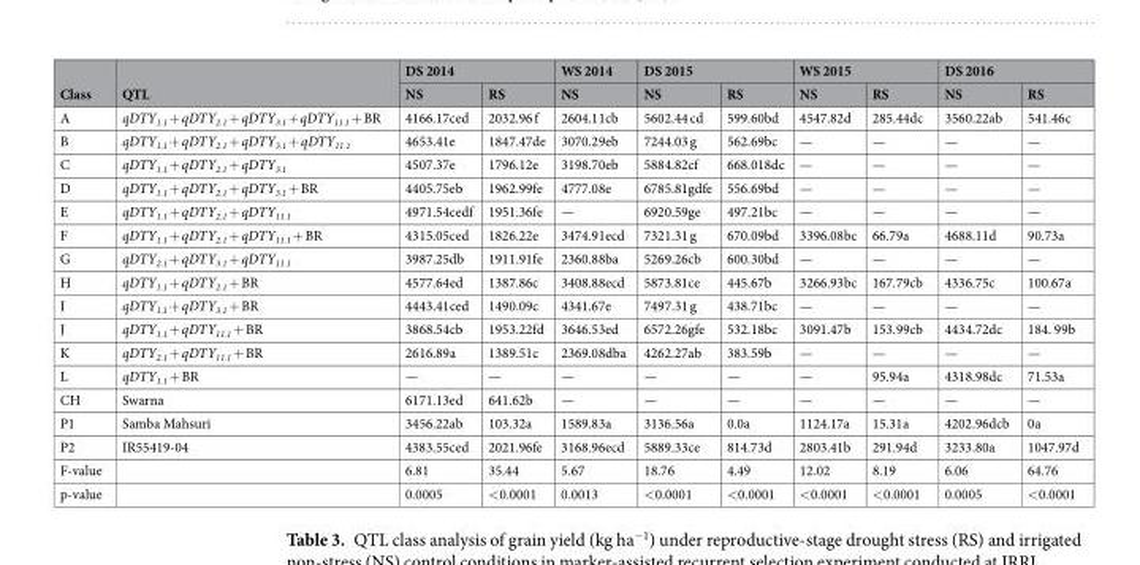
<table><thead><tr><td rowspan="2">Class</td><td rowspan="2">QTL</td><td colspan="2">DS 2014</td><td rowspan="2">WS 2014 NS</td><td colspan="2">DS 2015</td><td colspan="2">WS 2015</td><td colspan="2">DS 2016</td></tr><tr><td>NS</td><td>RS</td><td>NS</td><td>RS</td><td>NS</td><td>RS</td><td>NS</td><td>RS</td></tr></thead><tbody><tr><td>A</td><td>qDTY<sub>1.1</sub> + qDTY<sub>2.1</sub> + qDTY<sub>3.1</sub> + qDTY<sub>11.1</sub> + BR</td><td>4166.17ced</td><td>2032.96 f</td><td>2604.11cb</td><td>5602.44 cd</td><td>599.60bd</td><td>4547.82d</td><td>285.44dc</td><td>3560.22ab</td><td>541.46c</td></tr><tr><td>B</td><td>qDTY<sub>1.1</sub> + qDTY<sub>2.1</sub> + qDTY<sub>3.1</sub> + qDTY<sub>11.1</sub></td><td>4653.41e</td><td>1847.47de</td><td>3070.29eb</td><td>7244.03 g</td><td>562.69bc</td><td>—</td><td>—</td><td>—</td><td>—</td></tr><tr><td>C</td><td>qDTY<sub>1.1</sub> + qDTY<sub>2.1</sub> + qDTY<sub>3.1</sub></td><td>4507.37e</td><td>1796.12e</td><td>3198.70eb</td><td>5884.82cf</td><td>668.018dc</td><td>—</td><td>—</td><td>—</td><td>—</td></tr><tr><td>D</td><td>qDTY<sub>1.1</sub> + qDTY<sub>2.1</sub> + qDTY<sub>3.1</sub> + BR</td><td>4405.75eb</td><td>1962.99fe</td><td>4777.08e</td><td>6785.81gdfe</td><td>556.69bd</td><td>—</td><td>—</td><td>—</td><td>—</td></tr><tr><td>E</td><td>qDTY<sub>1.1</sub> + qDTY<sub>2.1</sub> + qDTY<sub>11.1</sub></td><td>4971.54cedf</td><td>1951.36fe</td><td>—</td><td>6920.59ge</td><td>497.21bc</td><td>—</td><td>—</td><td>—</td><td>—</td></tr><tr><td>F</td><td>qDTY<sub>1.1</sub> + qDTY<sub>2.1</sub> + qDTY<sub>11.1</sub> + BR</td><td>4315.05ced</td><td>1826.22e</td><td>3474.91ecd</td><td>7321.31 g</td><td>670.09bd</td><td>3396.08bc</td><td>66.79a</td><td>4688.11d</td><td>90.73a</td></tr><tr><td>G</td><td>qDTY<sub>2.1</sub> + qDTY<sub>3.1</sub> + qDTY<sub>11.1</sub></td><td>3987.25db</td><td>1911.91fe</td><td>2360.88ba</td><td>5269.26cb</td><td>600.30bd</td><td>—</td><td>—</td><td>—</td><td>—</td></tr><tr><td>H</td><td>qDTY<sub>1.1</sub> + qDTY<sub>2.1</sub> + BR</td><td>4577.64ed</td><td>1387.86c</td><td>3408.88ecd</td><td>5873.81ce</td><td>445.67b</td><td>3266.93bc</td><td>167.79cb</td><td>4336.75c</td><td>100.67a</td></tr><tr><td>I</td><td>qDTY<sub>1.1</sub> + qDTY<sub>3.1</sub> + BR</td><td>4443.41ced</td><td>1490.09c</td><td>4341.67e</td><td>7497.31 g</td><td>438.71bc</td><td>—</td><td>—</td><td>—</td><td>—</td></tr><tr><td>J</td><td>qDTY<sub>1.1</sub> + qDTY<sub>11.1</sub> + BR</td><td>3868.54cb</td><td>1953.22fd</td><td>3646.53ed</td><td>6572.26gfe</td><td>532.18bc</td><td>3091.47b</td><td>153.99cb</td><td>4434.72dc</td><td>184. 99b</td></tr><tr><td>K</td><td>qDTY<sub>2.1</sub> + qDTY<sub>11.1</sub> + BR</td><td>2616.89a</td><td>1389.51c</td><td>2369.08dba</td><td>4262.27ab</td><td>383.59b</td><td>—</td><td>—</td><td>—</td><td>—</td></tr><tr><td>L</td><td>qDTY<sub>1.1</sub> + BR</td><td>—</td><td>—</td><td>—</td><td>—</td><td>—</td><td>—</td><td>95.94a</td><td>4318.98dc</td><td>71.53a</td></tr><tr><td>CH</td><td>Swarna</td><td>6171.13ed</td><td>641.62b</td><td>—</td><td>—</td><td>—</td><td>—</td><td>—</td><td>—</td><td>—</td></tr><tr><td>P1</td><td>Samba Mahsuri</td><td>3456.22ab</td><td>103.32a</td><td>1589.83a</td><td>3136.56a</td><td>0.0a</td><td>1124.17a</td><td>15.31a</td><td>4202.96dcb</td><td>0a</td></tr><tr><td>P2</td><td>IR55419-04</td><td>4383.55ced</td><td>2021.96fe</td><td>3168.96ecd</td><td>5889.33ce</td><td>814.73d</td><td>2803.41b</td><td>291.94d</td><td>3233.80a</td><td>1047.97d</td></tr><tr><td>F-value</td><td></td><td>6.81</td><td>35.44</td><td>5.67</td><td>18.76</td><td>4.49</td><td>12.02</td><td>8.19</td><td>6.06</td><td>64.76</td></tr><tr><td>p-value</td><td></td><td>0.0005</td><td>&lt;0.0001</td><td>0.0013</td><td>&lt;0.0001</td><td>&lt;0.0001</td><td>&lt;0.0001</td><td>&lt;0.0001</td><td>0.0005</td><td>&lt;0.0001</td></tr></tbody></table>